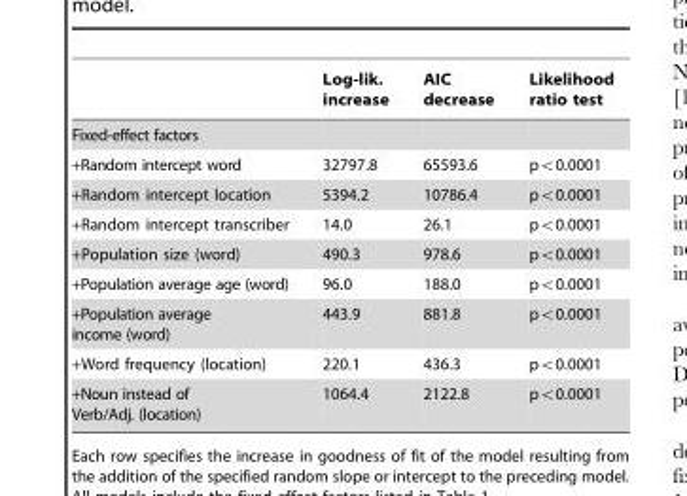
<table><thead><tr><td></td><td>Log-lik. increase</td><td>AIC decrease</td><td>Likelihood ratio test</td></tr></thead><tbody><tr><td colspan="4">Fixed-effect factors</td></tr><tr><td>+Random intercept word</td><td>32797.8</td><td>65593.6</td><td>pv0.0001</td></tr><tr><td>+Random intercept location</td><td>5394.2</td><td>10786.4</td><td>pv0.0001</td></tr><tr><td>+Random intercept transcriber</td><td>14.0</td><td>26.1</td><td>pv0.0001</td></tr><tr><td>+Population size (word)</td><td>490.3</td><td>978.6</td><td>pv0.0001</td></tr><tr><td>+Population average age (word)</td><td>96.0</td><td>188.0</td><td>pv0.0001</td></tr><tr><td>+Population average income (word)</td><td>443.9</td><td>881.8</td><td>pv0.0001</td></tr><tr><td>+Word frequency (location)</td><td>220.1</td><td>436.3</td><td>pv0.0001</td></tr><tr><td>+Noun instead of Verb/Adj. (location)</td><td>1064.4</td><td>2122.8</td><td>pv0.0001</td></tr></tbody></table>